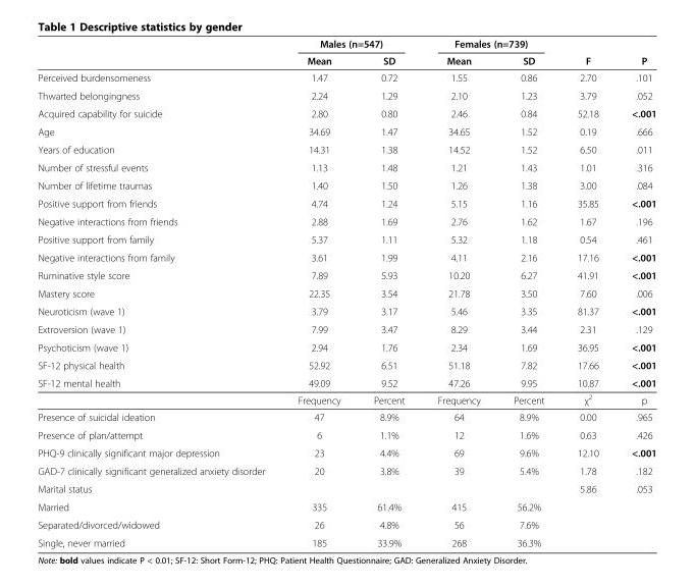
<table><thead><tr><td rowspan="2"></td><td colspan="2">Males (n=547)</td><td colspan="2">Females (n=739)</td><td rowspan="2">F</td><td rowspan="2">P</td></tr><tr><td>Mean</td><td>SD</td><td>Mean</td><td>SD</td></tr></thead><tbody><tr><td>Perceived burdensomeness</td><td>1.47</td><td>0.72</td><td>1.55</td><td>0.86</td><td>2.70</td><td>.101</td></tr><tr><td>Thwarted belongingness</td><td>2.24</td><td>1.29</td><td>2.10</td><td>1.23</td><td>3.79</td><td>.052</td></tr><tr><td>Acquired capability for suicide</td><td>2.80</td><td>0.80</td><td>2.46</td><td>0.84</td><td>52.18</td><td>&lt;.001</td></tr><tr><td>Age</td><td>34.69</td><td>1.47</td><td>34.65</td><td>1.52</td><td>0.19</td><td>.666</td></tr><tr><td>Years of education</td><td>14.31</td><td>1.38</td><td>14.52</td><td>1.52</td><td>6.50</td><td>.011</td></tr><tr><td>Number of stressful events</td><td>1.13</td><td>1.48</td><td>1.21</td><td>1.43</td><td>1.01</td><td>.316</td></tr><tr><td>Number of lifetime traumas</td><td>1.40</td><td>1.50</td><td>1.26</td><td>1.38</td><td>3.00</td><td>.084</td></tr><tr><td>Positive support from friends</td><td>4.74</td><td>1.24</td><td>5.15</td><td>1.16</td><td>35.85</td><td>&lt;.001</td></tr><tr><td>Negative interactions from friends</td><td>2.88</td><td>1.69</td><td>2.76</td><td>1.62</td><td>1.67</td><td>.196</td></tr><tr><td>Positive support from family</td><td>5.37</td><td>1.11</td><td>5.32</td><td>1.18</td><td>0.54</td><td>.461</td></tr><tr><td>Negative interactions from family</td><td>3.61</td><td>1.99</td><td>4.11</td><td>2.16</td><td>17.16</td><td>&lt;.001</td></tr><tr><td>Ruminative style score</td><td>7.89</td><td>5.93</td><td>10.20</td><td>6.27</td><td>41.91</td><td>&lt;.001</td></tr><tr><td>Mastery score</td><td>22.35</td><td>3.54</td><td>21.78</td><td>3.50</td><td>7.60</td><td>.006</td></tr><tr><td>Neuroticism (wave 1)</td><td>3.79</td><td>3.17</td><td>5.46</td><td>3.35</td><td>81.37</td><td>&lt;.001</td></tr><tr><td>Extroversion (wave 1)</td><td>7.99</td><td>3.47</td><td>8.29</td><td>3.44</td><td>2.31</td><td>.129</td></tr><tr><td>Psychoticism (wave 1)</td><td>2.94</td><td>1.76</td><td>2.34</td><td>1.69</td><td>36.95</td><td>&lt;.001</td></tr><tr><td>SF-12 physical health</td><td>52.92</td><td>6.51</td><td>51.18</td><td>7.82</td><td>17.66</td><td>&lt;.001</td></tr><tr><td rowspan="2">SF-12 mental health</td><td>49.09</td><td>9.52</td><td>47.26</td><td>9.95</td><td>10.87</td><td>&lt;.001</td></tr><tr><td>Frequency</td><td>Percent</td><td>Frequency</td><td>Percent</td><td>χ<sup>2</sup></td><td>p</td></tr><tr><td>Presence of suicidal ideation</td><td>47</td><td>8.9%</td><td>64</td><td>8.9%</td><td>0.00</td><td>.965</td></tr><tr><td>Presence of plan/attempt</td><td>6</td><td>1.1%</td><td>12</td><td>1.6%</td><td>0.63</td><td>.426</td></tr><tr><td>PHQ-9 clinically significant major depression</td><td>23</td><td>4.4%</td><td>69</td><td>9.6%</td><td>12.10</td><td>&lt;.001</td></tr><tr><td>GAD-7 clinically significant generalized anxiety disorder</td><td>20</td><td>3.8%</td><td>39</td><td>5.4%</td><td>1.78</td><td>.182</td></tr><tr><td>Marital status</td><td></td><td></td><td></td><td></td><td>5.86</td><td>.053</td></tr><tr><td>Married</td><td>335</td><td>61.4%</td><td>415</td><td>56.2%</td><td></td><td></td></tr><tr><td>Separated/divorced/widowed</td><td>26</td><td>4.8%</td><td>56</td><td>7.6%</td><td></td><td></td></tr><tr><td>Single, never married</td><td>185</td><td>33.9%</td><td>268</td><td>36.3%</td><td></td><td></td></tr></tbody></table>